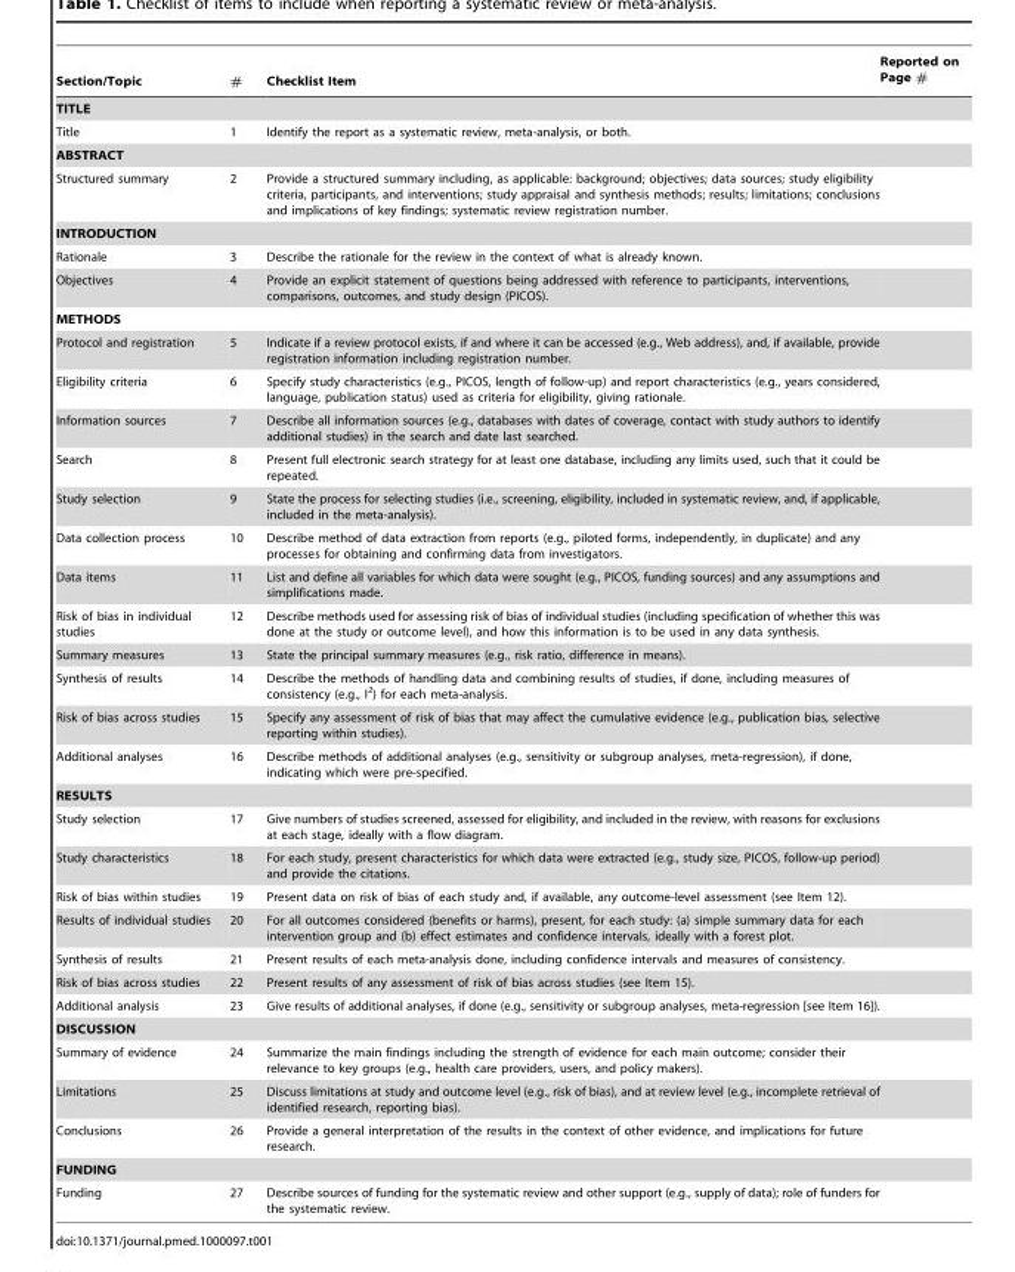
<table><thead><tr><td>Section/Topic</td><td>#</td><td>Checklist Item</td><td>Reported on Page #</td></tr></thead><tbody><tr><td colspan="4">TITLE</td></tr><tr><td>Title</td><td>1</td><td>Identify the report as a systematic review, meta-analysis, or both.</td><td></td></tr><tr><td colspan="4">ABSTRACT</td></tr><tr><td>Structured summary</td><td>2</td><td>Provide a structured summary including, as applicable: background; objectives; data sources; study eligibility criteria, participants, and interventions; study appraisal and synthesis methods; results; limitations; conclusions and implications of key findings; systematic review registration number.</td><td></td></tr><tr><td colspan="4">INTRODUCTION</td></tr><tr><td>Rationale</td><td>3</td><td>Describe the rationale for the review in the context of what is already known.</td><td></td></tr><tr><td>Objectives</td><td>4</td><td>Provide an explicit statement of questions being addressed with reference to participants, interventions, comparisons, outcomes, and study design (PICOS).</td><td></td></tr><tr><td colspan="4">METHODS</td></tr><tr><td>Protocol and registration</td><td>5</td><td>Indicate if a review protocol exists, if and where it can be accessed (e.g., Web address), and, if available, provide registration information including registration number.</td><td></td></tr><tr><td>Eligibility criteria</td><td>6</td><td>Specify study characteristics (e.g., PICOS, length of follow-up) and report characteristics (e.g., years considered, language, publication status) used as criteria for eligibility, giving rationale.</td><td></td></tr><tr><td>Information sources</td><td>7</td><td>Describe all information sources (e.g., databases with dates of coverage, contact with study authors to identify additional studies) in the search and date last searched.</td><td></td></tr><tr><td>Search</td><td>8</td><td>Present full electronic search strategy for at least one database, including any limits used, such that it could be repeated.</td><td></td></tr><tr><td>Study selection</td><td>9</td><td>State the process for selecting studies (i.e., screening, eligibility, included in systematic review, and, if applicable, included in the meta-analysis).</td><td></td></tr><tr><td>Data collection process</td><td>10</td><td>Describe method of data extraction from reports (e.g., piloted forms, independently, in duplicate) and any processes for obtaining and confirming data from investigators.</td><td></td></tr><tr><td>Data items</td><td>11</td><td>List and define all variables for which data were sought (e.g., PICOS, funding sources) and any assumptions and simplifications made.</td><td></td></tr><tr><td>Risk of bias in individual studies</td><td>12</td><td>Describe methods used for assessing risk of bias of individual studies (including specification of whether this was done at the study or outcome level), and how this information is to be used in any data synthesis.</td><td></td></tr><tr><td>Summary measures</td><td>13</td><td>State the principal summary measures (e.g., risk ratio, difference in means).</td><td></td></tr><tr><td>Synthesis of results</td><td>14</td><td>Describe the methods of handling data and combining results of studies, if done, including measures of consistency (e.g., I<sup>2</sup>) for each meta-analysis.</td><td></td></tr><tr><td>Risk of bias across studies</td><td>15</td><td>Specify any assessment of risk of bias that may affect the cumulative evidence (e.g., publication bias, selective reporting within studies).</td><td></td></tr><tr><td>Additional analyses</td><td>16</td><td>Describe methods of additional analyses (e.g., sensitivity or subgroup analyses, meta-regression), if done, indicating which were pre-specified.</td><td></td></tr><tr><td colspan="4">RESULTS</td></tr><tr><td>Study selection</td><td>17</td><td>Give numbers of studies screened, assessed for eligibility, and included in the review, with reasons for exclusions at each stage, ideally with a flow diagram.</td><td></td></tr><tr><td>Study characteristics</td><td>18</td><td>For each study, present characteristics for which data were extracted (e.g., study size, PICOS, follow-up period) and provide the citations.</td><td></td></tr><tr><td>Risk of bias within studies</td><td>19</td><td>Present data on risk of bias of each study and, if available, any outcome-level assessment (see Item 12).</td><td></td></tr><tr><td>Results of individual studies</td><td>20</td><td>For all outcomes considered (benefits or harms), present, for each study: (a) simple summary data for each intervention group and (b) effect estimates and confidence intervals, ideally with a forest plot.</td><td></td></tr><tr><td>Synthesis of results</td><td>21</td><td>Present results of each meta-analysis done, including confidence intervals and measures of consistency.</td><td></td></tr><tr><td>Risk of bias across studies</td><td>22</td><td>Present results of any assessment of risk of bias across studies (see Item 15).</td><td></td></tr><tr><td>Additional analysis</td><td>23</td><td>Give results of additional analyses, if done (e.g., sensitivity or subgroup analyses, meta-regression [see Item 16]).</td><td></td></tr><tr><td colspan="4">DISCUSSION</td></tr><tr><td>Summary of evidence</td><td>24</td><td>Summarize the main findings including the strength of evidence for each main outcome; consider their relevance to key groups (e.g., health care providers, users, and policy makers).</td><td></td></tr><tr><td>Limitations</td><td>25</td><td>Discuss limitations at study and outcome level (e.g., risk of bias), and at review level (e.g., incomplete retrieval of identified research, reporting bias).</td><td></td></tr><tr><td>Conclusions</td><td>26</td><td>Provide a general interpretation of the results in the context of other evidence, and implications for future research.</td><td></td></tr><tr><td colspan="4">FUNDING</td></tr><tr><td>Funding</td><td>27</td><td>Describe sources of funding for the systematic review and other support (e.g., supply of data); role of funders for the systematic review.</td><td></td></tr></tbody></table>